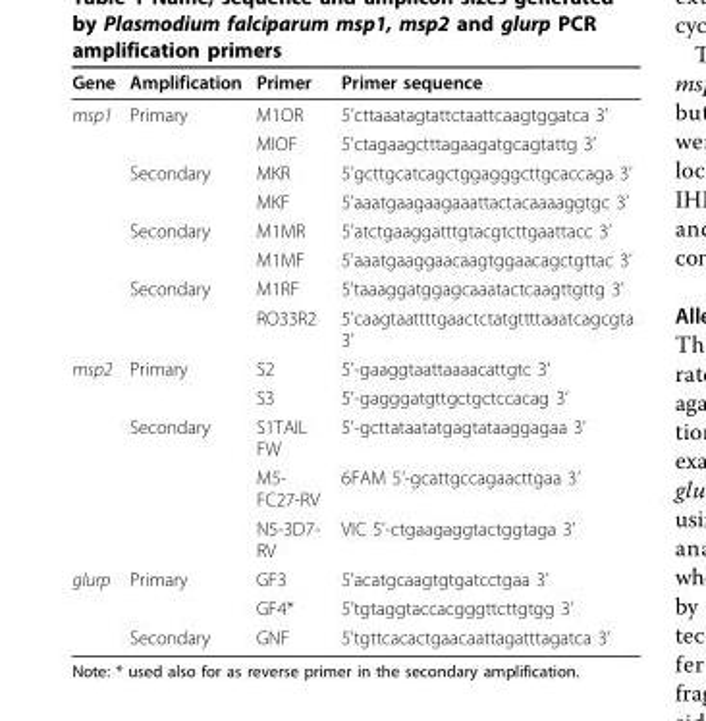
<table><thead><tr><td>Gene</td><td>Amplification</td><td>Primer</td><td>Primer sequence</td></tr></thead><tbody><tr><td rowspan="8">msp1</td><td>Primary</td><td>M1OR</td><td>5’cttaaatagtattctaattcaagtggatca 3’</td></tr><tr><td></td><td>MIOF</td><td>5’ctagaagctttagaagatgcagtattg 3’</td></tr><tr><td>Secondary</td><td>MKR</td><td>5’gcttgcatcagctggagggcttgcaccaga 3’</td></tr><tr><td></td><td>MKF</td><td>5’aaatgaagaagaaattactacaaaaggtgc 3’</td></tr><tr><td>Secondary</td><td>M1MR</td><td>5’atctgaaggatttgtacgtcttgaattacc 3’</td></tr><tr><td></td><td>M1MF</td><td>5’aaatgaaggaacaagtggaacagctgttac 3’</td></tr><tr><td>Secondary</td><td>M1RF</td><td>5’taaaggatggagcaaatactcaagttgttg 3’</td></tr><tr><td></td><td>RO33R2</td><td>5’caagtaattttgaactctatgttttaaatcagcgta 3’</td></tr><tr><td rowspan="5">msp2</td><td>Primary</td><td>S2</td><td>5’-gaaggtaattaaaacattgtc 3’</td></tr><tr><td></td><td>S3</td><td>5’-gagggatgttgctgctccacag 3’</td></tr><tr><td>Secondary</td><td>S1TAIL FW</td><td>5’-gcttataatatgagtataaggagaa 3’</td></tr><tr><td></td><td>M5- FC27-RV</td><td>6FAM 5’-gcattgccagaacttgaa 3’</td></tr><tr><td></td><td>N5-3D7- RV</td><td>VIC 5’-ctgaagaggtactggtaga 3’</td></tr><tr><td rowspan="3">glurp</td><td>Primary</td><td>GF3</td><td>5’acatgcaagtgtgatcctgaa 3’</td></tr><tr><td></td><td>GF4*</td><td>5’tgtaggtaccacgggttcttgtgg 3’</td></tr><tr><td>Secondary</td><td>GNF</td><td>5’tgttcacactgaacaattagatttagatca 3’</td></tr></tbody></table>